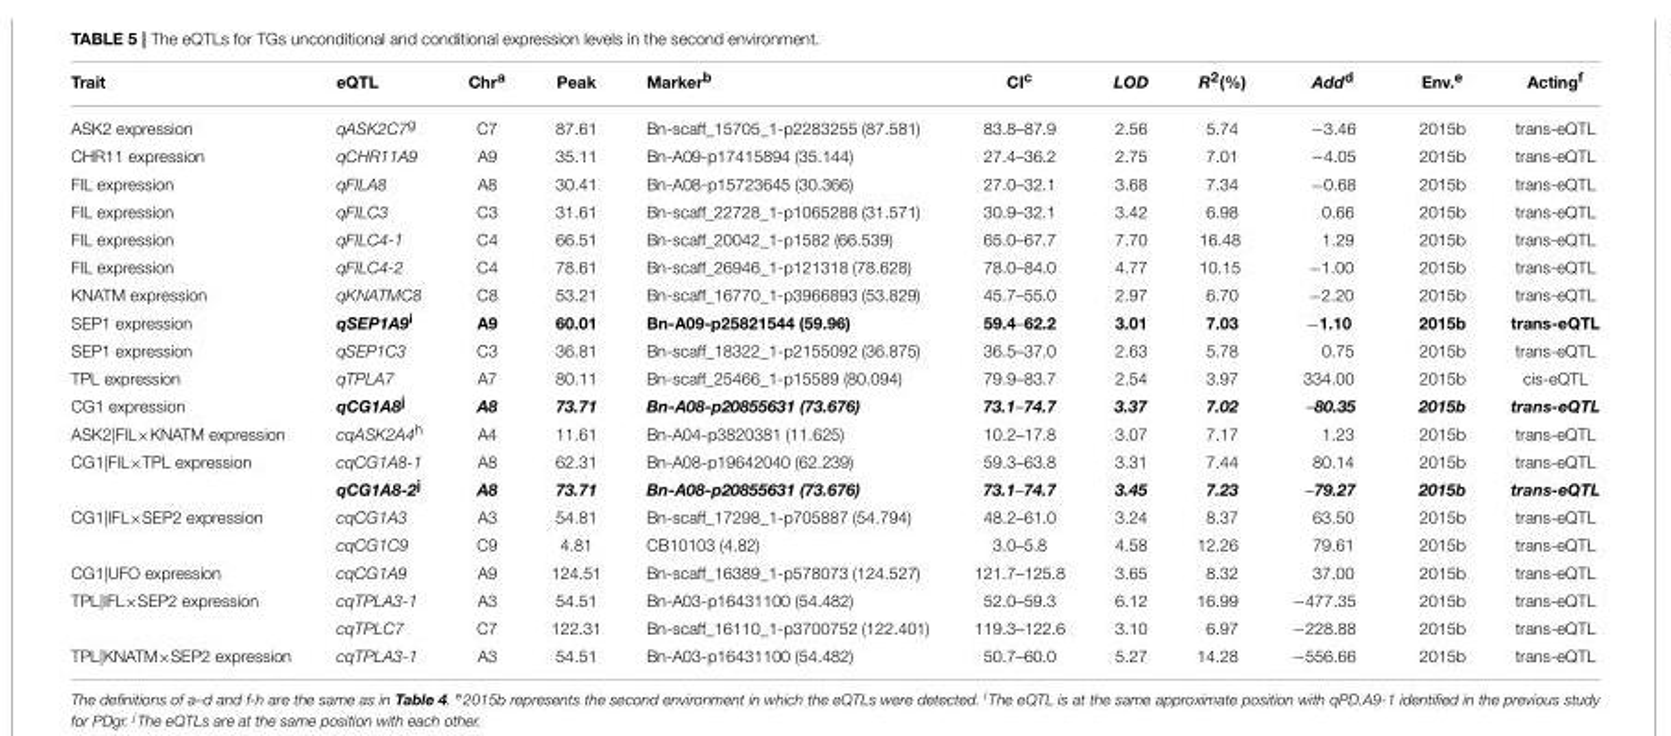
<table><thead><tr><td>Trait</td><td>eQTL</td><td>Chr<sup>a</sup></td><td>Peak</td><td>Marker<sup>b</sup></td><td>CI<sup>c</sup></td><td>LOD</td><td>R<sup>2</sup>(%)</td><td>Add<sup>d</sup></td><td>Env.<sup>e</sup></td><td>Acting<sup>f</sup></td></tr></thead><tbody><tr><td>ASK2 expression</td><td>qASK2C7<sup>g</sup></td><td>C7</td><td>87.61</td><td>Bn-scaff_15705_1-p2283255 (87.581)</td><td>83.8–87.9</td><td>2.56</td><td>5.74</td><td>−3.46</td><td>2015b</td><td>trans-eQTL</td></tr><tr><td>CHR11 expression</td><td>qCHR11A9</td><td>A9</td><td>35.11</td><td>Bn-A09-p17415894 (35.144)</td><td>27.4–36.2</td><td>2.75</td><td>7.01</td><td>−4.05</td><td>2015b</td><td>trans-eQTL</td></tr><tr><td>FIL expression</td><td>qFILA8</td><td>A8</td><td>30.41</td><td>Bn-A08-p15723645 (30.366)</td><td>27.0–32.1</td><td>3.68</td><td>7.34</td><td>−0.68</td><td>2015b</td><td>trans-eQTL</td></tr><tr><td>FIL expression</td><td>qFILC3</td><td>C3</td><td>31.61</td><td>Bn-scaff_22728_1-p1065288 (31.571)</td><td>30.9–32.1</td><td>3.42</td><td>6.98</td><td>0.66</td><td>2015b</td><td>trans-eQTL</td></tr><tr><td>FIL expression</td><td>qFILC4-1</td><td>C4</td><td>66.51</td><td>Bn-scaff_20042_1-p1582 (66.539)</td><td>65.0–67.7</td><td>7.70</td><td>16.48</td><td>1.29</td><td>2015b</td><td>trans-eQTL</td></tr><tr><td>FIL expression</td><td>qFILC4-2</td><td>C4</td><td>78.61</td><td>Bn-scaff_26946_1-p121318 (78.628)</td><td>78.0–84.0</td><td>4.77</td><td>10.15</td><td>−1.00</td><td>2015b</td><td>trans-eQTL</td></tr><tr><td>KNATM expression</td><td>qKNATMC8</td><td>C8</td><td>53.21</td><td>Bn-scaff_16770_1-p3966893 (53.829)</td><td>45.7–55.0</td><td>2.97</td><td>6.70</td><td>−2.20</td><td>2015b</td><td>trans-eQTL</td></tr><tr><td>SEP1 expression</td><td>qSEP1A9<sup>i</sup></td><td>A9</td><td>60.01</td><td>Bn-A09-p25821544 (59.96)</td><td>59.4–62.2</td><td>3.01</td><td>7.03</td><td>−1.10</td><td>2015b</td><td>trans-eQTL</td></tr><tr><td>SEP1 expression</td><td>qSEP1C3</td><td>C3</td><td>36.81</td><td>Bn-scaff_18322_1-p2155092 (36.875)</td><td>36.5–37.0</td><td>2.63</td><td>5.78</td><td>0.75</td><td>2015b</td><td>trans-eQTL</td></tr><tr><td>TPL expression</td><td>qTPLA7</td><td>A7</td><td>80.11</td><td>Bn-scaff_25466_1-p15589 (80.094)</td><td>79.9–83.7</td><td>2.54</td><td>3.97</td><td>334.00</td><td>2015b</td><td>cis-eQTL</td></tr><tr><td>CG1 expression</td><td>qCG1A8<sup>j</sup></td><td>A8</td><td>73.71</td><td>Bn-A08-p20855631 (73.676)</td><td>73.1–74.7</td><td>3.37</td><td>7.02</td><td>–80.35</td><td>2015b</td><td>trans-eQTL</td></tr><tr><td>ASK2|FIL×KNATM expression</td><td>cqASK2A4<sup>h</sup></td><td>A4</td><td>11.61</td><td>Bn-A04-p3820381 (11.625)</td><td>10.2–17.8</td><td>3.07</td><td>7.17</td><td>1.23</td><td>2015b</td><td>trans-eQTL</td></tr><tr><td rowspan="2">CG1|FIL×TPL expression</td><td>cqCG1A8-1</td><td>A8</td><td>62.31</td><td>Bn-A08-p19642040 (62.239)</td><td>59.3–63.8</td><td>3.31</td><td>7.44</td><td>80.14</td><td>2015b</td><td>trans-eQTL</td></tr><tr><td>qCG1A8-2<sup>j</sup></td><td>A8</td><td>73.71</td><td>Bn-A08-p20855631 (73.676)</td><td>73.1–74.7</td><td>3.45</td><td>7.23</td><td>–79.27</td><td>2015b</td><td>trans-eQTL</td></tr><tr><td rowspan="2">CG1|IFL×SEP2 expression</td><td>cqCG1A3</td><td>A3</td><td>54.81</td><td>Bn-scaff_17298_1-p705887 (54.794)</td><td>48.2–61.0</td><td>3.24</td><td>8.37</td><td>63.50</td><td>2015b</td><td>trans-eQTL</td></tr><tr><td>cqCG1C9</td><td>C9</td><td>4.81</td><td>CB10103 (4.82)</td><td>3.0–5.8</td><td>4.58</td><td>12.26</td><td>79.61</td><td>2015b</td><td>trans-eQTL</td></tr><tr><td>CG1|UFO expression</td><td>cqCG1A9</td><td>A9</td><td>124.51</td><td>Bn-scaff_16389_1-p578073 (124.527)</td><td>121.7–125.8</td><td>3.65</td><td>8.32</td><td>37.00</td><td>2015b</td><td>trans-eQTL</td></tr><tr><td rowspan="2">TPL|IFL×SEP2 expression</td><td>cqTPLA3-1</td><td>A3</td><td>54.51</td><td>Bn-A03-p16431100 (54.482)</td><td>52.0–59.3</td><td>6.12</td><td>16.99</td><td>−477.35</td><td>2015b</td><td>trans-eQTL</td></tr><tr><td>cqTPLC7</td><td>C7</td><td>122.31</td><td>Bn-scaff_16110_1-p3700752 (122.401)</td><td>119.3–122.6</td><td>3.10</td><td>6.97</td><td>−228.88</td><td>2015b</td><td>trans-eQTL</td></tr><tr><td>TPL|KNATM×SEP2 expression</td><td>cqTPLA3-1</td><td>A3</td><td>54.51</td><td>Bn-A03-p16431100 (54.482)</td><td>50.7–60.0</td><td>5.27</td><td>14.28</td><td>−556.66</td><td>2015b</td><td>trans-eQTL</td></tr></tbody></table>